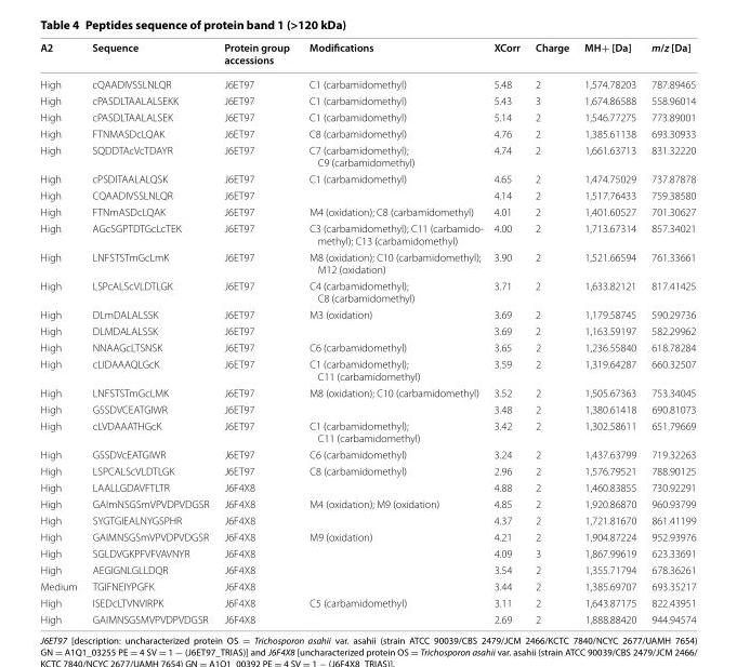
<table><thead><tr><td>A2</td><td>Sequence</td><td>Protein group accessions</td><td>Modifications</td><td>XCorr</td><td>Charge</td><td>MH+ [Da]</td><td>m/z [Da]</td></tr></thead><tbody><tr><td>High</td><td>cQAADIVSSLNLQR</td><td>J6ET97</td><td>C1 (carbamidomethyl)</td><td>5.48</td><td>2</td><td>1,574.78203</td><td>787.89465</td></tr><tr><td>High</td><td>cPASDLTAALALSEKK</td><td>J6ET97</td><td>C1 (carbamidomethyl)</td><td>5.43</td><td>3</td><td>1,674.86588</td><td>558.96014</td></tr><tr><td>High</td><td>cPASDLTAALALSEK</td><td>J6ET97</td><td>C1 (carbamidomethyl)</td><td>5.14</td><td>2</td><td>1,546.77275</td><td>773.89001</td></tr><tr><td>High</td><td>FTNMASDcLQAK</td><td>J6ET97</td><td>C8 (carbamidomethyl)</td><td>4.76</td><td>2</td><td>1,385.61138</td><td>693.30933</td></tr><tr><td>High</td><td>SQDDTAcVcTDAYR</td><td>J6ET97</td><td>C7 (carbamidomethyl); C9 (carbamidomethyl)</td><td>4.74</td><td>2</td><td>1,661.63713</td><td>831.32220</td></tr><tr><td>High</td><td>cPSDITAALALQSK</td><td>J6ET97</td><td>C1 (carbamidomethyl)</td><td>4.65</td><td>2</td><td>1,474.75029</td><td>737.87878</td></tr><tr><td>High</td><td>CQAADIVSSLNLQR</td><td>J6ET97</td><td></td><td>4.14</td><td>2</td><td>1,517.76433</td><td>759.38580</td></tr><tr><td>High</td><td>FTNmASDcLQAK</td><td>J6ET97</td><td>M4 (oxidation); C8 (carbamidomethyl)</td><td>4.01</td><td>2</td><td>1,401.60527</td><td>701.30627</td></tr><tr><td>High</td><td>AGcSGPTDTGcLcTEK</td><td>J6ET97</td><td>C3 (carbamidomethyl); C11 (carbamido‑ methyl); C13 (carbamidomethyl)</td><td>4.00</td><td>2</td><td>1,713.67314</td><td>857.34021</td></tr><tr><td>High</td><td>LNFSTSTmGcLmK</td><td>J6ET97</td><td>M8 (oxidation); C10 (carbamidomethyl); M12 (oxidation)</td><td>3.90</td><td>2</td><td>1,521.66594</td><td>761.33661</td></tr><tr><td>High</td><td>LSPcALScVLDTLGK</td><td>J6ET97</td><td>C4 (carbamidomethyl); C8 (carbamidomethyl)</td><td>3.71</td><td>2</td><td>1,633.82121</td><td>817.41425</td></tr><tr><td>High</td><td>DLmDALALSSK</td><td>J6ET97</td><td>M3 (oxidation)</td><td>3.69</td><td>2</td><td>1,179.58745</td><td>590.29736</td></tr><tr><td>High</td><td>DLMDALALSSK</td><td>J6ET97</td><td></td><td>3.69</td><td>2</td><td>1,163.59197</td><td>582.29962</td></tr><tr><td>High</td><td>NNAAGcLTSNSK</td><td>J6ET97</td><td>C6 (carbamidomethyl)</td><td>3.65</td><td>2</td><td>1,236.55840</td><td>618.78284</td></tr><tr><td>High</td><td>cLIDAAAQLGcK</td><td>J6ET97</td><td>C1 (carbamidomethyl); C11 (carbamidomethyl)</td><td>3.59</td><td>2</td><td>1,319.64287</td><td>660.32507</td></tr><tr><td>High</td><td>LNFSTSTmGcLMK</td><td>J6ET97</td><td>M8 (oxidation); C10 (carbamidomethyl)</td><td>3.52</td><td>2</td><td>1,505.67363</td><td>753.34045</td></tr><tr><td>High</td><td>GSSDVCEATGIWR</td><td>J6ET97</td><td></td><td>3.48</td><td>2</td><td>1,380.61418</td><td>690.81073</td></tr><tr><td>High</td><td>cLVDAAATHGcK</td><td>J6ET97</td><td>C1 (carbamidomethyl); C11 (carbamidomethyl)</td><td>3.42</td><td>2</td><td>1,302.58611</td><td>651.79669</td></tr><tr><td>High</td><td>GSSDVcEATGIWR</td><td>J6ET97</td><td>C6 (carbamidomethyl)</td><td>3.24</td><td>2</td><td>1,437.63799</td><td>719.32263</td></tr><tr><td>High</td><td>LSPCALScVLDTLGK</td><td>J6ET97</td><td>C8 (carbamidomethyl)</td><td>2.96</td><td>2</td><td>1,576.79521</td><td>788.90125</td></tr><tr><td>High</td><td>LAALLGDAVFTLTR</td><td>J6F4X8</td><td></td><td>4.88</td><td>2</td><td>1,460.83855</td><td>730.92291</td></tr><tr><td>High</td><td>GAImNSGSmVPVDPVDGSR</td><td>J6F4X8</td><td>M4 (oxidation); M9 (oxidation)</td><td>4.85</td><td>2</td><td>1,920.86870</td><td>960.93799</td></tr><tr><td>High</td><td>SYGTGIEALNYGSPHR</td><td>J6F4X8</td><td></td><td>4.37</td><td>2</td><td>1,721.81670</td><td>861.41199</td></tr><tr><td>High</td><td>GAIMNSGSmVPVDPVDGSR</td><td>J6F4X8</td><td>M9 (oxidation)</td><td>4.21</td><td>2</td><td>1,904.87224</td><td>952.93976</td></tr><tr><td>High</td><td>SGLDVGKPFVFVAVNYR</td><td>J6F4X8</td><td></td><td>4.09</td><td>3</td><td>1,867.99619</td><td>623.33691</td></tr><tr><td>High</td><td>AEGIGNLGLLDQR</td><td>J6F4X8</td><td></td><td>3.54</td><td>2</td><td>1,355.71794</td><td>678.36261</td></tr><tr><td>Medium</td><td>TGIFNEIYPGFK</td><td>J6F4X8</td><td></td><td>3.44</td><td>2</td><td>1,385.69707</td><td>693.35217</td></tr><tr><td>High</td><td>ISEDcLTVNVIRPK</td><td>J6F4X8</td><td>C5 (carbamidomethyl)</td><td>3.11</td><td>2</td><td>1,643.87175</td><td>822.43951</td></tr><tr><td>High</td><td>GAIMNSGSMVPVDPVDGSR</td><td>J6F4X8</td><td></td><td>2.69</td><td>2</td><td>1,888.88420</td><td>944.94574</td></tr></tbody></table>